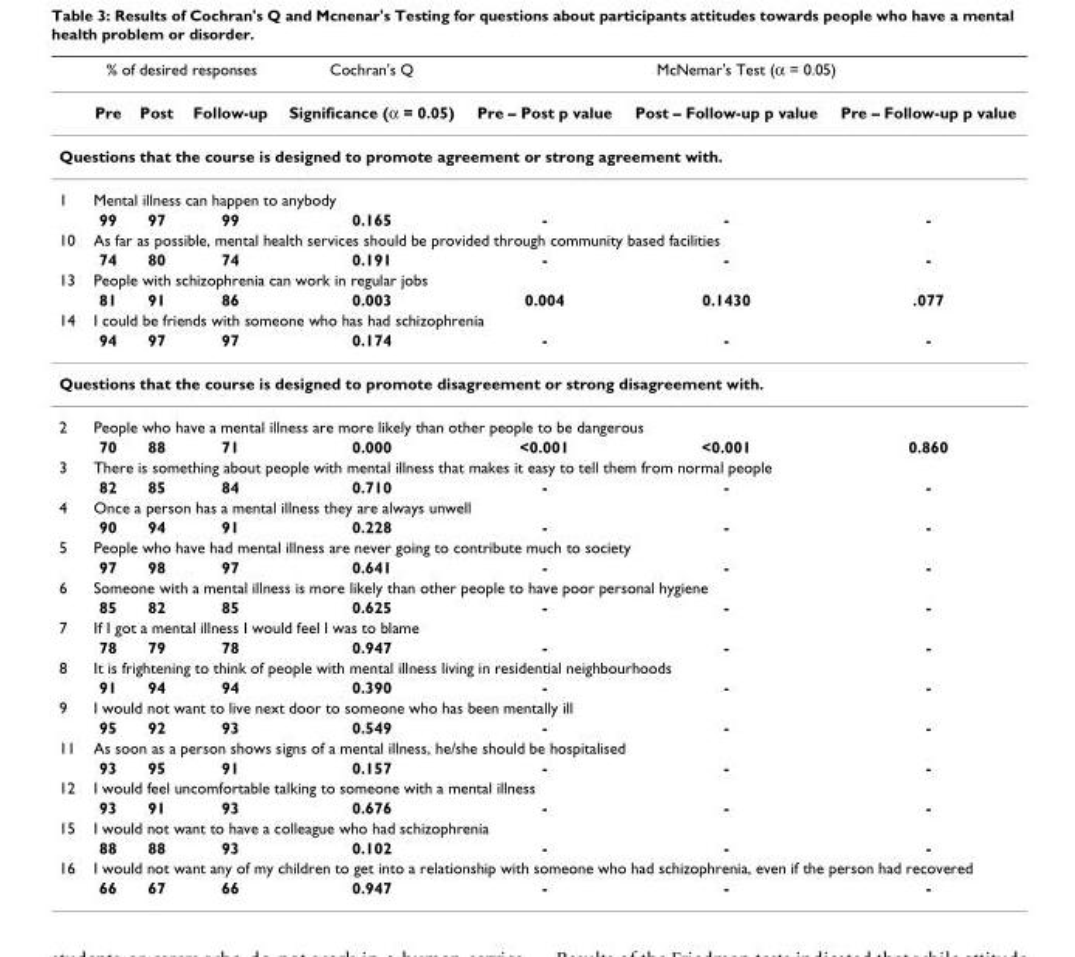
<table><thead><tr><td rowspan="2"></td><td colspan="3">% of desired responses</td><td rowspan="2">Cochran&#x27;s Q Significance (α = 0.05)</td><td colspan="3">McNemar&#x27;s Test (α = 0.05)</td></tr><tr><td>Pre</td><td>Post</td><td>Follow-up</td><td>Pre – Post p value</td><td>Post – Follow-up p value</td><td>Pre – Follow-up p value</td></tr></thead><tbody><tr><td colspan="8">Questions that the course is designed to promote agreement or strong agreement with.</td></tr><tr><td rowspan="2">1</td><td colspan="7">Mental illness can happen to anybody</td></tr><tr><td>99</td><td>97</td><td>99</td><td>0.165</td><td>-</td><td>-</td><td>-</td></tr><tr><td rowspan="2">10</td><td colspan="7">As far as possible, mental health services should be provided through community based facilities</td></tr><tr><td>74</td><td>80</td><td>74</td><td>0.191</td><td>-</td><td>-</td><td>-</td></tr><tr><td rowspan="2">13</td><td colspan="7">People with schizophrenia can work in regular jobs</td></tr><tr><td>81</td><td>91</td><td>86</td><td>0.003</td><td>0.004</td><td>0.1430</td><td>.077</td></tr><tr><td rowspan="2">14</td><td colspan="7">I could be friends with someone who has had schizophrenia</td></tr><tr><td>94</td><td>97</td><td>97</td><td>0.174</td><td>-</td><td>-</td><td>-</td></tr><tr><td colspan="8">Questions that the course is designed to promote disagreement or strong disagreement with.</td></tr><tr><td rowspan="2">2</td><td colspan="7">People who have a mental illness are more likely than other people to be dangerous</td></tr><tr><td>70</td><td>88</td><td>71</td><td>0.000</td><td>&lt;0.001</td><td>&lt;0.001</td><td>0.860</td></tr><tr><td rowspan="2">3</td><td colspan="7">There is something about people with mental illness that makes it easy to tell them from normal people</td></tr><tr><td>82</td><td>85</td><td>84</td><td>0.710</td><td>-</td><td>-</td><td>-</td></tr><tr><td rowspan="2">4</td><td colspan="7">Once a person has a mental illness they are always unwell</td></tr><tr><td>90</td><td>94</td><td>91</td><td>0.228</td><td>-</td><td>-</td><td>-</td></tr><tr><td rowspan="2">5</td><td colspan="7">People who have had mental illness are never going to contribute much to society</td></tr><tr><td>97</td><td>98</td><td>97</td><td>0.641</td><td>-</td><td>-</td><td>-</td></tr><tr><td rowspan="2">6</td><td colspan="7">Someone with a mental illness is more likely than other people to have poor personal hygiene</td></tr><tr><td>85</td><td>82</td><td>85</td><td>0.625</td><td>-</td><td>-</td><td>-</td></tr><tr><td rowspan="2">7</td><td colspan="7">If I got a mental illness I would feel I was to blame</td></tr><tr><td>78</td><td>79</td><td>78</td><td>0.947</td><td>-</td><td>-</td><td>-</td></tr><tr><td rowspan="2">8</td><td colspan="7">It is frightening to think of people with mental illness living in residential neighbourhoods</td></tr><tr><td>91</td><td>94</td><td>94</td><td>0.390</td><td>-</td><td>-</td><td>-</td></tr><tr><td rowspan="2">9</td><td colspan="7">I would not want to live next door to someone who has been mentally ill</td></tr><tr><td>95</td><td>92</td><td>93</td><td>0.549</td><td>-</td><td>-</td><td>-</td></tr><tr><td rowspan="2">11</td><td colspan="7">As soon as a person shows signs of a mental illness, he/she should be hospitalised</td></tr><tr><td>93</td><td>95</td><td>91</td><td>0.157</td><td>-</td><td>-</td><td>-</td></tr><tr><td rowspan="2">12</td><td colspan="7">I would feel uncomfortable talking to someone with a mental illness</td></tr><tr><td>93</td><td>91</td><td>93</td><td>0.676</td><td>-</td><td>-</td><td>-</td></tr><tr><td rowspan="2">15</td><td colspan="7">I would not want to have a colleague who had schizophrenia</td></tr><tr><td>88</td><td>88</td><td>93</td><td>0.102</td><td>-</td><td>-</td><td>-</td></tr><tr><td rowspan="2">16</td><td colspan="7">I would not want any of my children to get into a relationship with someone who had schizophrenia, even if the person had recovered</td></tr><tr><td>66</td><td>67</td><td>66</td><td>0.947</td><td>-</td><td>-</td><td>-</td></tr></tbody></table>